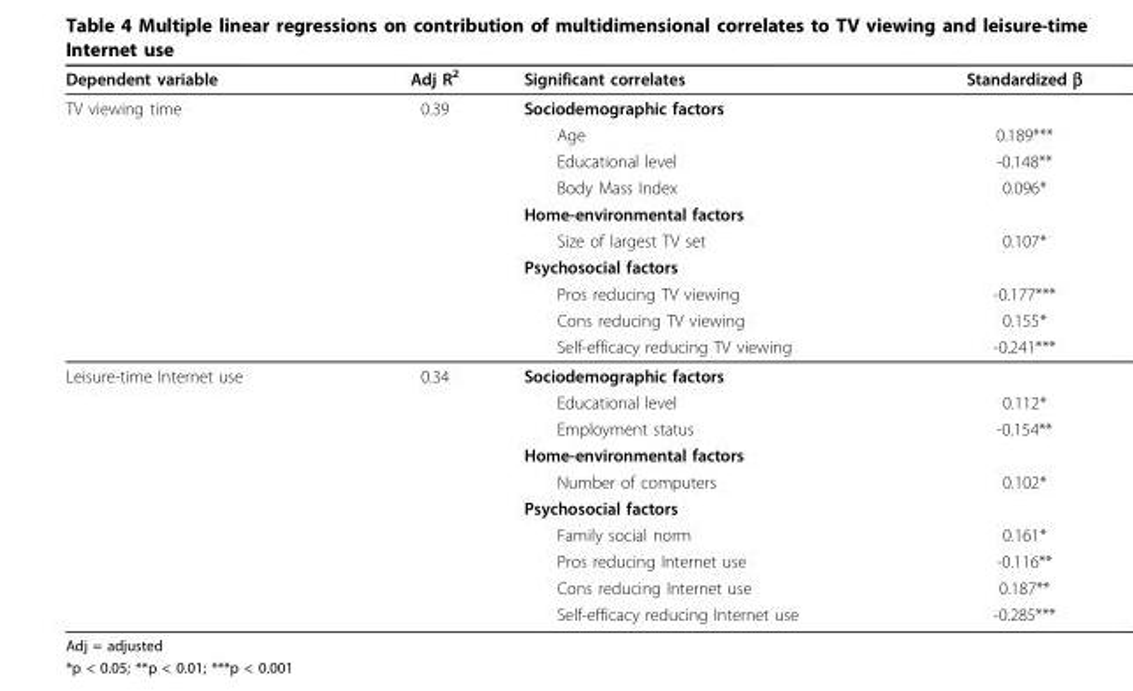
<table><thead><tr><td>Dependent variable</td><td>Adj R<sup>2</sup></td><td>Significant correlates</td><td>Standardized</td></tr></thead><tbody><tr><td rowspan="10">TV viewing time</td><td>0.39</td><td>Sociodemographic factors</td><td></td></tr><tr><td></td><td>Age</td><td>0.189***</td></tr><tr><td></td><td>Educational level</td><td>-0.148**</td></tr><tr><td></td><td>Body Mass Index</td><td>0.096*</td></tr><tr><td></td><td>Home-environmental factors</td><td></td></tr><tr><td></td><td>Size of largest TV set</td><td>0.107*</td></tr><tr><td></td><td>Psychosocial factors</td><td></td></tr><tr><td></td><td>Pros reducing TV viewing</td><td>-0.177***</td></tr><tr><td></td><td>Cons reducing TV viewing</td><td>0.155*</td></tr><tr><td></td><td>Self-efficacy reducing TV viewing</td><td>-0.241***</td></tr><tr><td rowspan="10">Leisure-time Internet use</td><td>0.34</td><td>Sociodemographic factors</td><td></td></tr><tr><td></td><td>Educational level</td><td>0.112*</td></tr><tr><td></td><td>Employment status</td><td>-0.154**</td></tr><tr><td></td><td>Home-environmental factors</td><td></td></tr><tr><td></td><td>Number of computers</td><td>0.102*</td></tr><tr><td></td><td>Psychosocial factors</td><td></td></tr><tr><td></td><td>Family social norm</td><td>0.161*</td></tr><tr><td></td><td>Pros reducing Internet use</td><td>-0.116**</td></tr><tr><td></td><td>Cons reducing Internet use</td><td>0.187**</td></tr><tr><td></td><td>Self-efficacy reducing Internet use</td><td>-0.285***</td></tr></tbody></table>